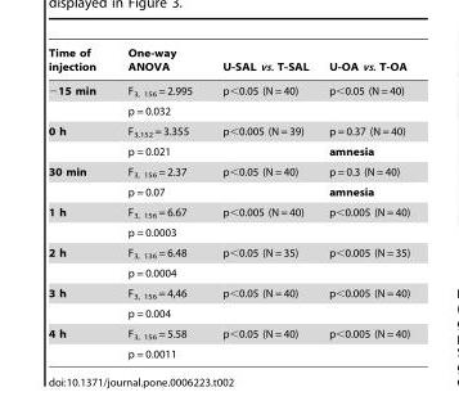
<table><thead><tr><td>Time of injection</td><td>One-way ANOVA</td><td>U-SAL vs. T-SAL</td><td>U-OA vs. T-OA</td></tr></thead><tbody><tr><td rowspan="2">−15 min</td><td>F<sub>3, 156</sub> = 2.995</td><td>p&lt;0.05 (N = 40)</td><td>p&lt;0.05 (N = 40)</td></tr><tr><td>p = 0.032</td><td></td><td></td></tr><tr><td rowspan="2">0 h</td><td>F<sub>3,152</sub> = 3.355</td><td>p&lt;0.005 (N = 39)</td><td>p = 0.37 (N = 40)</td></tr><tr><td>p = 0.021</td><td></td><td>amnesia</td></tr><tr><td rowspan="2">30 min</td><td>F<sub>3, 156</sub> = 2.37</td><td>p&lt;0.05 (N = 40)</td><td>p = 0.3 (N = 40)</td></tr><tr><td>p = 0.07</td><td></td><td>amnesia</td></tr><tr><td rowspan="2">1 h</td><td>F<sub>3, 156</sub> = 6.67</td><td>p&lt;0.005 (N = 40)</td><td>p&lt;0.005 (N = 40)</td></tr><tr><td>p = 0.0003</td><td></td><td></td></tr><tr><td rowspan="2">2 h</td><td>F<sub>3, 136</sub> = 6.48</td><td>p&lt;0.05 (N = 35)</td><td>p&lt;0.005 (N = 35)</td></tr><tr><td>p = 0.0004</td><td></td><td></td></tr><tr><td rowspan="2">3 h</td><td>F<sub>3, 156</sub> = 4,46</td><td>p&lt;0.05 (N = 40)</td><td>p&lt;0.005 (N = 40)</td></tr><tr><td>p = 0.004</td><td></td><td></td></tr><tr><td rowspan="2">4 h</td><td>F<sub>3, 156</sub> = 5.58</td><td>p&lt;0.05 (N = 40)</td><td>p&lt;0.005 (N = 40)</td></tr><tr><td>p = 0.0011</td><td></td><td></td></tr></tbody></table>